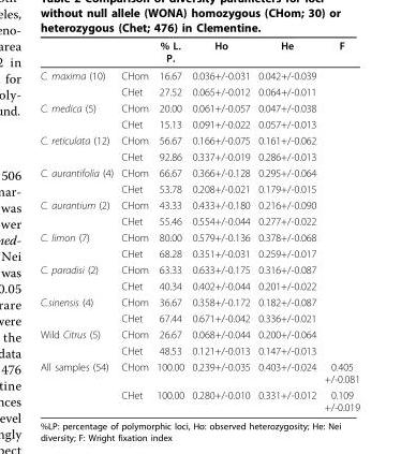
<table><thead><tr><td></td><td></td><td>% L. P.</td><td>Ho</td><td>He</td><td>F</td></tr></thead><tbody><tr><td rowspan="2">C. maxima (10)</td><td>CHom</td><td>16.67</td><td>0.036+/-0.031</td><td>0.042+/-0.039</td><td></td></tr><tr><td>CHet</td><td>27.52</td><td>0.065+/-0.012</td><td>0.064+/-0.011</td><td></td></tr><tr><td rowspan="2">C. medica (5)</td><td>CHom</td><td>20.00</td><td>0.061+/-0.057</td><td>0.047+/-0.038</td><td></td></tr><tr><td>CHet</td><td>15.13</td><td>0.091+/-0.022</td><td>0.057+/-0.013</td><td></td></tr><tr><td rowspan="2">C. reticulata (12)</td><td>CHom</td><td>56.67</td><td>0.166+/-0.075</td><td>0.161+/-0.062</td><td></td></tr><tr><td>CHet</td><td>92.86</td><td>0.337+/-0.019</td><td>0.286+/-0.013</td><td></td></tr><tr><td rowspan="2">C. aurantifolia (4)</td><td>CHom</td><td>66.67</td><td>0.366+/-0.128</td><td>0.295+/-0.064</td><td></td></tr><tr><td>CHet</td><td>53.78</td><td>0.208+/-0.021</td><td>0.179+/-0.015</td><td></td></tr><tr><td rowspan="2">C. aurantium (2)</td><td>CHom</td><td>43.33</td><td>0.433+/-0.180</td><td>0.216+/-0.090</td><td></td></tr><tr><td>CHet</td><td>55.46</td><td>0.554+/-0.044</td><td>0.277+/-0.022</td><td></td></tr><tr><td rowspan="2">C. limon (7)</td><td>CHom</td><td>80.00</td><td>0.579+/-0.136</td><td>0.378+/-0.068</td><td></td></tr><tr><td>CHet</td><td>68.28</td><td>0.351+/-0.031</td><td>0.259+/-0.017</td><td></td></tr><tr><td rowspan="2">C. paradisi (2)</td><td>CHom</td><td>63.33</td><td>0.633+/-0.175</td><td>0.316+/-0.087</td><td></td></tr><tr><td>CHet</td><td>40.34</td><td>0.402+/-0.044</td><td>0.201+/-0.022</td><td></td></tr><tr><td rowspan="2">C.sinensis (4)</td><td>CHom</td><td>36.67</td><td>0.358+/-0.172</td><td>0.182+/-0.087</td><td></td></tr><tr><td>CHet</td><td>67.44</td><td>0.671+/-0.042</td><td>0.336+/-0.021</td><td></td></tr><tr><td rowspan="2">Wild Citrus (5)</td><td>CHom</td><td>26.67</td><td>0.068+/-0.044</td><td>0.200+/-0.064</td><td></td></tr><tr><td>CHet</td><td>48.53</td><td>0.121+/-0.013</td><td>0.147+/-0.013</td><td></td></tr><tr><td rowspan="2">All samples (54)</td><td>CHom</td><td>100.00</td><td>0.239+/-0.035</td><td>0.403+/-0.024</td><td>0.405 +/-0.081</td></tr><tr><td>CHet</td><td>100.00</td><td>0.280+/-0.010</td><td>0.331+/-0.012</td><td>0.109 +/-0.019</td></tr></tbody></table>